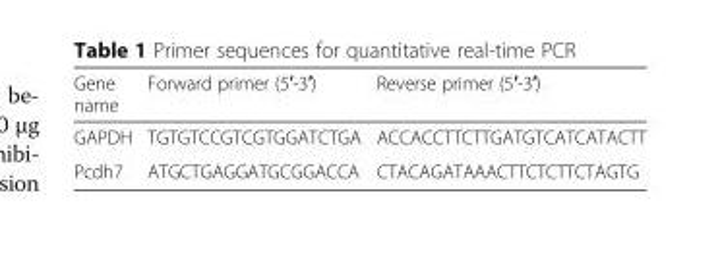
<table><thead><tr><td>Gene name</td><td>Forward primer (5′-3′)</td><td>Reverse primer (5′-3′)</td></tr></thead><tbody><tr><td>GAPDH</td><td>TGTGTCCGTCGTGGATCTGA</td><td>ACCACCTTCTTGATGTCATCATACTT</td></tr><tr><td>Pcdh7</td><td>ATGCTGAGGATGCGGACCA</td><td>CTACAGATAAACTTCTCTTCTAGTG</td></tr></tbody></table>